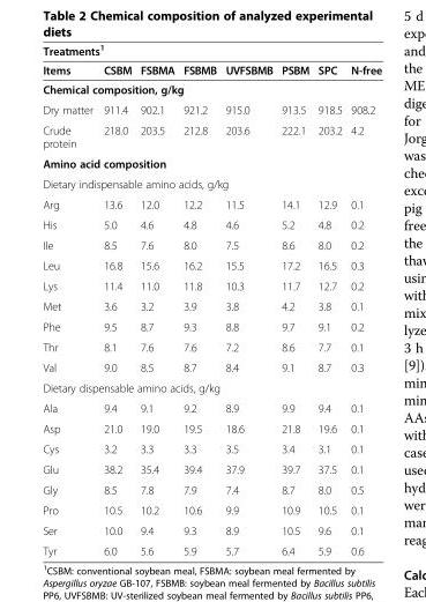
<table><thead><tr><td colspan="8">Treatments<sup>1</sup></td></tr><tr><td>Items</td><td>CSBM</td><td>FSBMA</td><td>FSBMB</td><td>UVFSBMB</td><td>PSBM</td><td>SPC</td><td>N-free</td></tr></thead><tbody><tr><td colspan="8">Chemical composition, g/kg</td></tr><tr><td>Dry matter</td><td>911.4</td><td>902.1</td><td>921.2</td><td>915.0</td><td>913.5</td><td>918.5</td><td>908.2</td></tr><tr><td>Crude protein</td><td>218.0</td><td>203.5</td><td>212.8</td><td>203.6</td><td>222.1</td><td>203.2</td><td>4.2</td></tr><tr><td colspan="8">Amino acid composition</td></tr><tr><td colspan="8">Dietary indispensable amino acids, g/kg</td></tr><tr><td>Arg</td><td>13.6</td><td>12.0</td><td>12.2</td><td>11.5</td><td>14.1</td><td>12.9</td><td>0.1</td></tr><tr><td>His</td><td>5.0</td><td>4.6</td><td>4.8</td><td>4.6</td><td>5.2</td><td>4.8</td><td>0.2</td></tr><tr><td>Ile</td><td>8.5</td><td>7.6</td><td>8.0</td><td>7.5</td><td>8.6</td><td>8.0</td><td>0.2</td></tr><tr><td>Leu</td><td>16.8</td><td>15.6</td><td>16.2</td><td>15.5</td><td>17.2</td><td>16.5</td><td>0.3</td></tr><tr><td>Lys</td><td>11.4</td><td>11.0</td><td>11.8</td><td>10.3</td><td>11.7</td><td>12.7</td><td>0.2</td></tr><tr><td>Met</td><td>3.6</td><td>3.2</td><td>3.9</td><td>3.8</td><td>4.2</td><td>3.8</td><td>0.1</td></tr><tr><td>Phe</td><td>9.5</td><td>8.7</td><td>9.3</td><td>8.8</td><td>9.7</td><td>9.1</td><td>0.2</td></tr><tr><td>Thr</td><td>8.1</td><td>7.6</td><td>7.6</td><td>7.2</td><td>8.6</td><td>7.7</td><td>0.1</td></tr><tr><td>Val</td><td>9.0</td><td>8.5</td><td>8.7</td><td>8.4</td><td>9.1</td><td>8.7</td><td>0.3</td></tr><tr><td colspan="8">Dietary dispensable amino acids, g/kg</td></tr><tr><td>Ala</td><td>9.4</td><td>9.1</td><td>9.2</td><td>8.9</td><td>9.9</td><td>9.4</td><td>0.1</td></tr><tr><td>Asp</td><td>21.0</td><td>19.0</td><td>19.5</td><td>18.6</td><td>21.8</td><td>19.6</td><td>0.1</td></tr><tr><td>Cys</td><td>3.2</td><td>3.3</td><td>3.3</td><td>3.5</td><td>3.4</td><td>3.1</td><td>0.1</td></tr><tr><td>Glu</td><td>38.2</td><td>35.4</td><td>39.4</td><td>37.9</td><td>39.7</td><td>37.5</td><td>0.1</td></tr><tr><td>Gly</td><td>8.5</td><td>7.8</td><td>7.9</td><td>7.4</td><td>8.7</td><td>8.0</td><td>0.5</td></tr><tr><td>Pro</td><td>10.5</td><td>10.2</td><td>10.6</td><td>9.9</td><td>10.9</td><td>10.5</td><td>0.1</td></tr><tr><td>Ser</td><td>10.0</td><td>9.4</td><td>9.3</td><td>8.9</td><td>10.5</td><td>9.6</td><td>0.1</td></tr><tr><td>Tyr</td><td>6.0</td><td>5.6</td><td>5.9</td><td>5.7</td><td>6.4</td><td>5.9</td><td>0.6</td></tr></tbody></table>